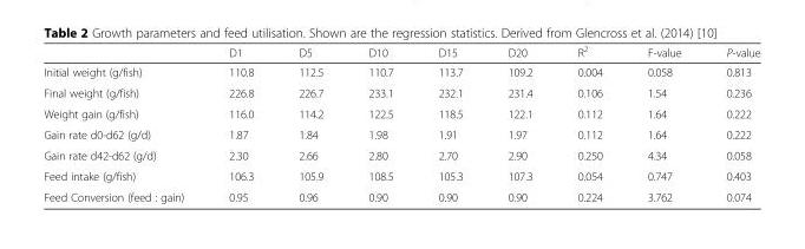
<table><thead><tr><td></td><td>D1</td><td>D5</td><td>D10</td><td>D15</td><td>D20</td><td>R<sup>2</sup></td><td>F-value</td><td>P-value</td></tr></thead><tbody><tr><td>Initial weight (g/fish)</td><td>110.8</td><td>112.5</td><td>110.7</td><td>113.7</td><td>109.2</td><td>0.004</td><td>0.058</td><td>0.813</td></tr><tr><td>Final weight (g/fish)</td><td>226.8</td><td>226.7</td><td>233.1</td><td>232.1</td><td>231.4</td><td>0.106</td><td>1.54</td><td>0.236</td></tr><tr><td>Weight gain (g/fish)</td><td>116.0</td><td>114.2</td><td>122.5</td><td>118.5</td><td>122.1</td><td>0.112</td><td>1.64</td><td>0.222</td></tr><tr><td>Gain rate d0-d62 (g/d)</td><td>1.87</td><td>1.84</td><td>1.98</td><td>1.91</td><td>1.97</td><td>0.112</td><td>1.64</td><td>0.222</td></tr><tr><td>Gain rate d42-d62 (g/d)</td><td>2.30</td><td>2.66</td><td>2.80</td><td>2.70</td><td>2.90</td><td>0.250</td><td>4.34</td><td>0.058</td></tr><tr><td>Feed intake (g/fish)</td><td>106.3</td><td>105.9</td><td>108.5</td><td>105.3</td><td>107.3</td><td>0.054</td><td>0.747</td><td>0.403</td></tr><tr><td>Feed Conversion (feed : gain)</td><td>0.95</td><td>0.96</td><td>0.90</td><td>0.90</td><td>0.90</td><td>0.224</td><td>3.762</td><td>0.074</td></tr></tbody></table>